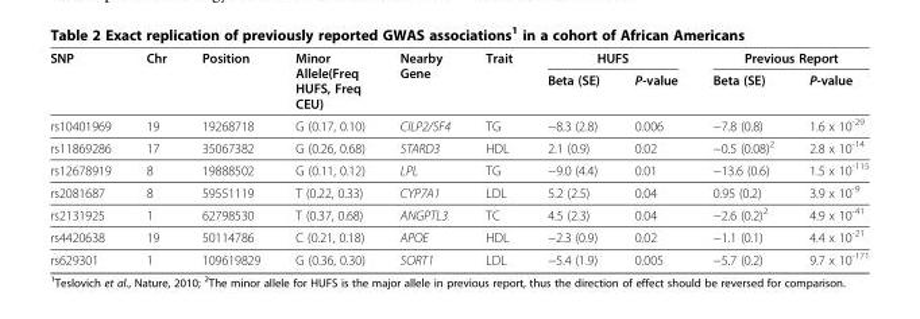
<table><thead><tr><td rowspan="2">SNP</td><td rowspan="2">Chr</td><td rowspan="2">Position</td><td rowspan="2">Minor Allele(Freq HUFS, Freq CEU)</td><td rowspan="2">Nearby Gene</td><td rowspan="2">Trait</td><td colspan="2">HUFS</td><td colspan="2">Previous Report</td></tr><tr><td>Beta (SE)</td><td>P-value</td><td>Beta (SE)</td><td>P-value</td></tr></thead><tbody><tr><td>rs10401969</td><td>19</td><td>19268718</td><td>G (0.17, 0.10)</td><td>CILP2/SF4</td><td>TG</td><td>−8.3 (2.8)</td><td>0.006</td><td>−7.8 (0.8)</td><td>1.6 x 10<sup>-29</sup></td></tr><tr><td>rs11869286</td><td>17</td><td>35067382</td><td>G (0.26, 0.68)</td><td>STARD3</td><td>HDL</td><td>2.1 (0.9)</td><td>0.02</td><td>−0.5 (0.08)<sup>2</sup></td><td>2.8 x 10<sup>-14</sup></td></tr><tr><td>rs12678919</td><td>8</td><td>19888502</td><td>G (0.11, 0.12)</td><td>LPL</td><td>TG</td><td>−9.0 (4.4)</td><td>0.01</td><td>−13.6 (0.6)</td><td>1.5 x 10<sup>-115</sup></td></tr><tr><td>rs2081687</td><td>8</td><td>59551119</td><td>T (0.22, 0.33)</td><td>CYP7A1</td><td>LDL</td><td>5.2 (2.5)</td><td>0.04</td><td>0.95 (0.2)</td><td>3.9 x 10<sup>-9</sup></td></tr><tr><td>rs2131925</td><td>1</td><td>62798530</td><td>T (0.37, 0.68)</td><td>ANGPTL3</td><td>TC</td><td>4.5 (2.3)</td><td>0.04</td><td>−2.6 (0.2)<sup>2</sup></td><td>4.9 x 10<sup>-41</sup></td></tr><tr><td>rs4420638</td><td>19</td><td>50114786</td><td>C (0.21, 0.18)</td><td>APOE</td><td>HDL</td><td>−2.3 (0.9)</td><td>0.02</td><td>−1.1 (0.1)</td><td>4.4 x 10<sup>-21</sup></td></tr><tr><td>rs629301</td><td>1</td><td>109619829</td><td>G (0.36, 0.30)</td><td>SORT1</td><td>LDL</td><td>−5.4 (1.9)</td><td>0.005</td><td>−5.7 (0.2)</td><td>9.7 x 10<sup>-171</sup></td></tr></tbody></table>